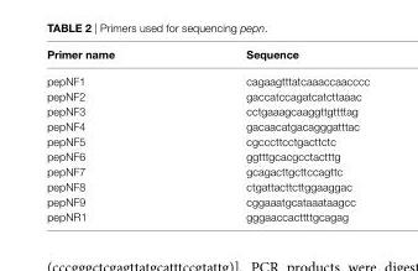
<table><thead><tr><td>Primer name</td><td>sequence</td></tr></thead><tbody><tr><td>pepNF1</td><td>cagaagtttatcaaaccaacccc</td></tr><tr><td>pepNF2</td><td>gaccatccagatcatcttaaac</td></tr><tr><td>pepNF3</td><td>cctgaaagcaaggttgttttag</td></tr><tr><td>pepNF4</td><td>gacaacatgacagggatttac</td></tr><tr><td>pepNF5</td><td>cgcccttcctgacttctc</td></tr><tr><td>pepNF6</td><td>ggtttgcacgcctactttg</td></tr><tr><td>pepNF7</td><td>gcagacttgcttccagttc</td></tr><tr><td>pepNF8</td><td>ctgattacttcttggaaggac</td></tr><tr><td>pepNF9</td><td>cggaaatgcataaataagcc</td></tr><tr><td>pepNR1</td><td>gggaaccacttttgcagag</td></tr></tbody></table>